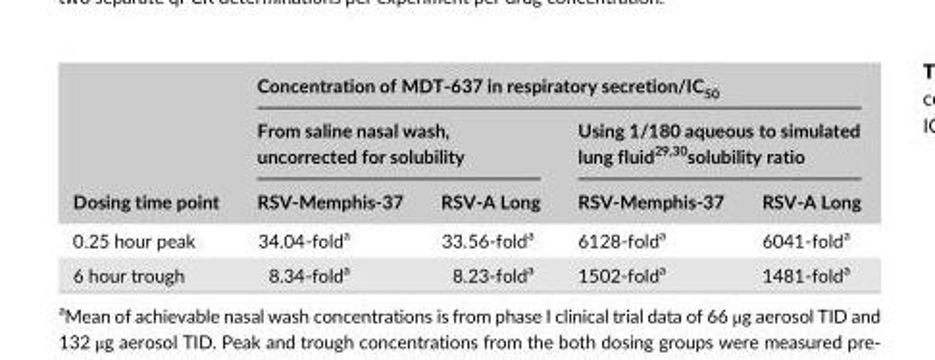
<table><thead><tr><td rowspan="3">Dosing time point</td><td colspan="4">Concentration of MDT- 637 in respiratory secretion/IC<sub>50</sub></td></tr><tr><td colspan="2">From saline nasal wash, uncorrected for solubility</td><td colspan="2">Using 1/180 aqueous to simulated lung fluid<sup>29</sup>,<sup>30</sup>solubility ratio</td></tr><tr><td>RSV- Memphis- 37</td><td>RSV- A Long</td><td>RSV- Memphis- 37</td><td>RSV- A Long</td></tr></thead><tbody><tr><td>0.25 hour peak</td><td>34.04- fold<sup>a</sup></td><td>33.56- fold<sup>a</sup></td><td>6128- fold<sup>a</sup></td><td>6041- fold<sup>a</sup></td></tr><tr><td>6 hour trough</td><td>8.34- fold<sup>a</sup></td><td>8.23- fold<sup>a</sup></td><td>1502- fold<sup>a</sup></td><td>1481- fold<sup>a</sup></td></tr></tbody></table>